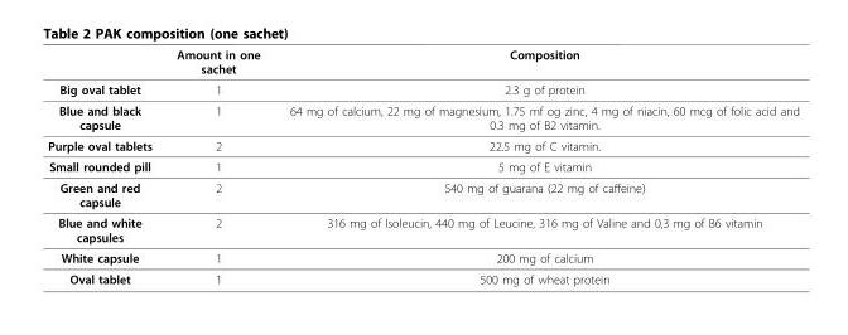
<table><thead><tr><td></td><td>Amount in one sachet</td><td>Composition</td></tr></thead><tbody><tr><td>Big oval tablet</td><td>1</td><td>2.3 g of protein</td></tr><tr><td>Blue and black capsule</td><td>1</td><td>64 mg of calcium, 22 mg of magnesium, 1.75 mf og zinc, 4 mg of niacin, 60 mcg of folic acid and 0.3 mg of B2 vitamin.</td></tr><tr><td>Purple oval tablets</td><td>2</td><td>22.5 mg of C vitamin.</td></tr><tr><td>Small rounded pill</td><td>1</td><td>5 mg of E vitamin</td></tr><tr><td>Green and red capsule</td><td>2</td><td>540 mg of guarana (22 mg of caffeine)</td></tr><tr><td>Blue and white capsules</td><td>2</td><td>316 mg of Isoleucin, 440 mg of Leucine, 316 mg of Valine and 0,3 mg of B6 vitamin</td></tr><tr><td>White capsule</td><td>1</td><td>200 mg of calcium</td></tr><tr><td>Oval tablet</td><td>1</td><td>500 mg of wheat protein</td></tr></tbody></table>